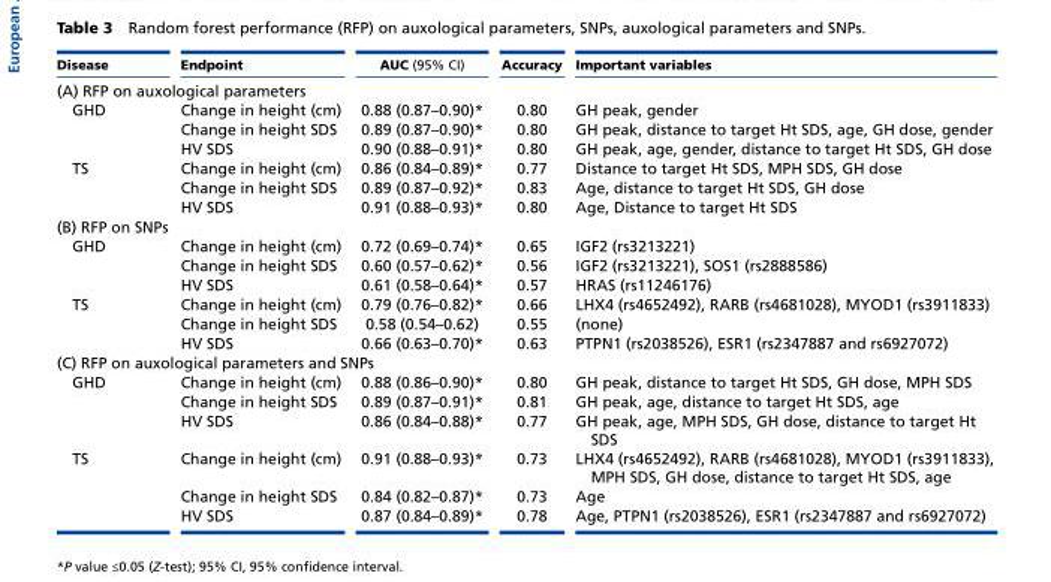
<table><thead><tr><td>Disease</td><td>Endpoint</td><td>AUC (95% CI)</td><td>Accuracy</td><td>Important variables</td></tr></thead><tbody><tr><td colspan="5">(A) RFP on auxological parameters</td></tr><tr><td rowspan="3">GHD</td><td>Change in height (cm)</td><td>0.88 (0.87–0.90)*</td><td>0.80</td><td>GH peak, gender</td></tr><tr><td>Change in height SDS</td><td>0.89 (0.87–0.90)*</td><td>0.80</td><td>GH peak, distance to target Ht SDS, age, GH dose, gender</td></tr><tr><td>HV SDS</td><td>0.90 (0.88–0.91)*</td><td>0.80</td><td>GH peak, age, gender, distance to target Ht SDS, GH dose</td></tr><tr><td rowspan="3">TS</td><td>Change in height (cm)</td><td>0.86 (0.84–0.89)*</td><td>0.77</td><td>Distance to target Ht SDS, MPH SDS, GH dose</td></tr><tr><td>Change in height SDS</td><td>0.89 (0.87–0.92)*</td><td>0.83</td><td>Age, distance to target Ht SDS, GH dose</td></tr><tr><td>HV SDS</td><td>0.91 (0.88–0.93)*</td><td>0.80</td><td>Age, Distance to target Ht SDS</td></tr><tr><td colspan="5">(B) RFP on SNPs</td></tr><tr><td rowspan="3">GHD</td><td>Change in height (cm)</td><td>0.72 (0.69–0.74)*</td><td>0.65</td><td>IGF2 (rs3213221)</td></tr><tr><td>Change in height SDS</td><td>0.60 (0.57–0.62)*</td><td>0.56</td><td>IGF2 (rs3213221), SOS1 (rs2888586)</td></tr><tr><td>HV SDS</td><td>0.61 (0.58–0.64)*</td><td>0.57</td><td>HRAS (rs11246176)</td></tr><tr><td rowspan="3">TS</td><td>Change in height (cm)</td><td>0.79 (0.76–0.82)*</td><td>0.66</td><td>LHX4 (rs4652492), RARB (rs4681028), MYOD1 (rs3911833)</td></tr><tr><td>Change in height SDS</td><td>0.58 (0.54–0.62)</td><td>0.55</td><td>(none)</td></tr><tr><td>HV SDS</td><td>0.66 (0.63–0.70)*</td><td>0.63</td><td>PTPN1 (rs2038526), ESR1 (rs2347887 and rs6927072)</td></tr><tr><td colspan="5">(C) RFP on auxological parameters and SNPs</td></tr><tr><td rowspan="3">GHD</td><td>Change in height (cm)</td><td>0.88 (0.86–0.90)*</td><td>0.80</td><td>GH peak, distance to target Ht SDS, GH dose, MPH SDS</td></tr><tr><td>Change in height SDS</td><td>0.89 (0.87–0.91)*</td><td>0.81</td><td>GH peak, age, distance to target Ht SDS, age</td></tr><tr><td>HV SDS</td><td>0.86 (0.84–0.88)*</td><td>0.77</td><td>GH peak, age, MPH SDS, GH dose, distance to target Ht SDS</td></tr><tr><td rowspan="3">TS</td><td>Change in height (cm)</td><td>0.91 (0.88–0.93)*</td><td>0.73</td><td>LHX4 (rs4652492), RARB (rs4681028), MYOD1 (rs3911833), MPH SDS, GH dose, distance to target Ht SDS, age</td></tr><tr><td>Change in height SDS</td><td>0.84 (0.82–0.87)*</td><td>0.73</td><td>Age</td></tr><tr><td>HV SDS</td><td>0.87 (0.84–0.89)*</td><td>0.78</td><td>Age, PTPN1 (rs2038526), ESR1 (rs2347887 and rs6927072)</td></tr></tbody></table>